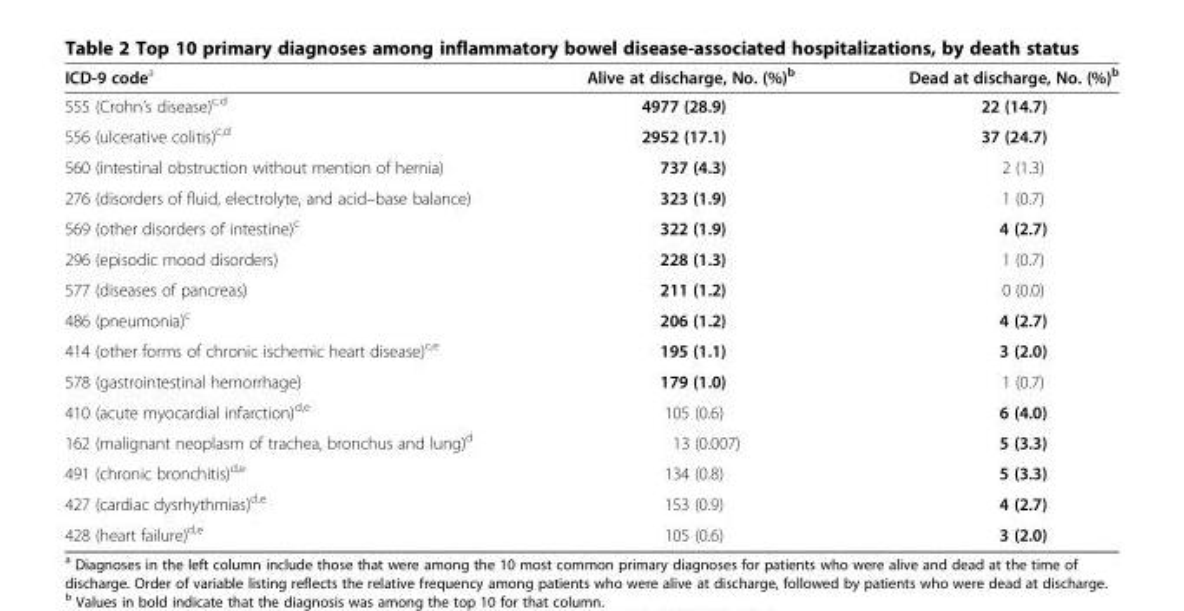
<table><thead><tr><td>ICD-9 code<sup>a</sup></td><td>Alive at discharge, No. (%)<sup>b</sup></td><td>Dead at discharge, No. (%)<sup>b</sup></td></tr></thead><tbody><tr><td>555 (Crohn’s disease)<sup>c,d</sup></td><td>4977 (28.9)</td><td>22 (14.7)</td></tr><tr><td>556 (ulcerative colitis)<sup>c,d</sup></td><td>2952 (17.1)</td><td>37 (24.7)</td></tr><tr><td>560 (intestinal obstruction without mention of hernia)</td><td>737 (4.3)</td><td>2 (1.3)</td></tr><tr><td>276 (disorders of fluid, electrolyte, and acid–base balance)</td><td>323 (1.9)</td><td>1 (0.7)</td></tr><tr><td>569 (other disorders of intestine)<sup>c</sup></td><td>322 (1.9)</td><td>4 (2.7)</td></tr><tr><td>296 (episodic mood disorders)</td><td>228 (1.3)</td><td>1 (0.7)</td></tr><tr><td>577 (diseases of pancreas)</td><td>211 (1.2)</td><td>0 (0.0)</td></tr><tr><td>486 (pneumonia)<sup>c</sup></td><td>206 (1.2)</td><td>4 (2.7)</td></tr><tr><td>414 (other forms of chronic ischemic heart disease)<sup>c,e</sup></td><td>195 (1.1)</td><td>3 (2.0)</td></tr><tr><td>578 (gastrointestinal hemorrhage)</td><td>179 (1.0)</td><td>1 (0.7)</td></tr><tr><td>410 (acute myocardial infarction)<sup>d,e</sup></td><td>105 (0.6)</td><td>6 (4.0)</td></tr><tr><td>162 (malignant neoplasm of trachea, bronchus and lung)<sup>d</sup></td><td>13 (0.007)</td><td>5 (3.3)</td></tr><tr><td>491 (chronic bronchitis)<sup>d,e</sup></td><td>134 (0.8)</td><td>5 (3.3)</td></tr><tr><td>427 (cardiac dysrhythmias)<sup>d,e</sup></td><td>153 (0.9)</td><td>4 (2.7)</td></tr><tr><td>428 (heart failure)<sup>d,e</sup></td><td>105 (0.6)</td><td>3 (2.0)</td></tr></tbody></table>